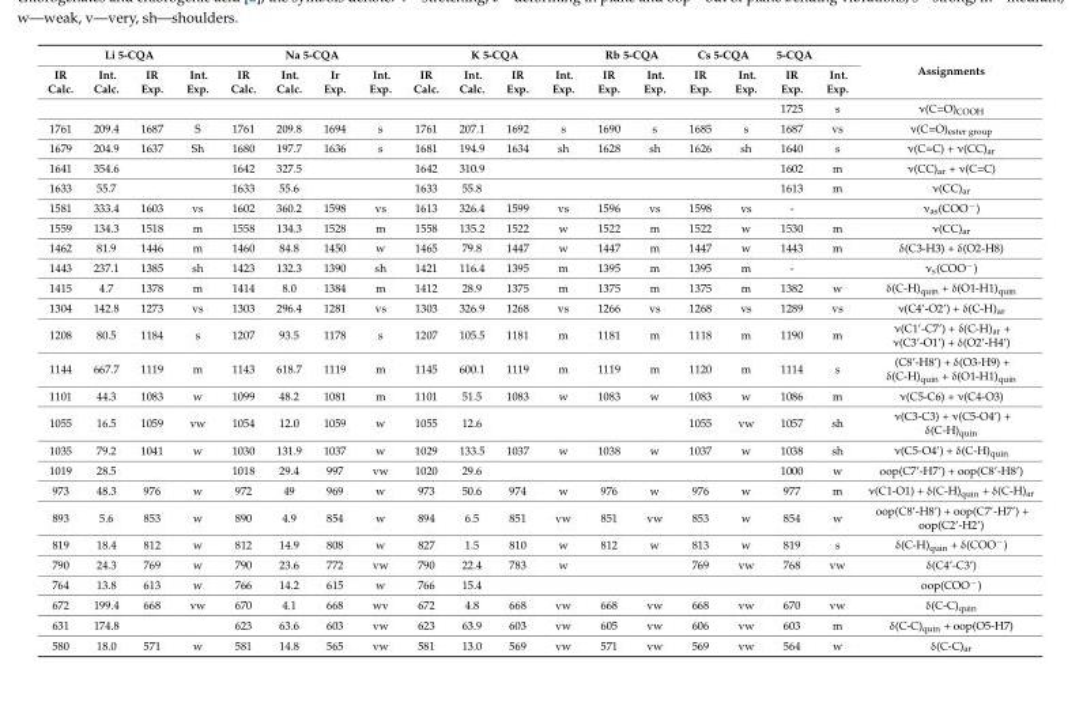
<table><thead><tr><td colspan="4">Li 5-CQA</td><td colspan="4">Na 5-CQA</td><td colspan="4">K 5-CQA</td><td colspan="2">Rb 5-CQA</td><td colspan="2">Cs 5-CQA</td><td rowspan="2">5-CQA IR Exp.</td><td rowspan="2">Int. Exp.</td><td rowspan="2">Assignments</td></tr><tr><td>IR Calc.</td><td>Int. Calc.</td><td>IR Exp.</td><td>Int. Exp.</td><td>IR Calc.</td><td>Int. Calc.</td><td>Ir Exp.</td><td>Int. Exp.</td><td>IR Calc.</td><td>Int. Calc.</td><td>IR Exp.</td><td>Int. Exp.</td><td>IR Exp.</td><td>Int. Exp.</td><td>IR Exp.</td><td>Int. Exp.</td></tr></thead><tbody><tr><td></td><td></td><td></td><td></td><td></td><td></td><td></td><td></td><td></td><td></td><td></td><td></td><td></td><td></td><td></td><td></td><td>1725</td><td>s</td><td>ν(C=O)<sub>COOH</sub></td></tr><tr><td>1761</td><td>209.4</td><td>1687</td><td>S</td><td>1761</td><td>209.8</td><td>1694</td><td>s</td><td>1761</td><td>207.1</td><td>1692</td><td>s</td><td>1690</td><td>s</td><td>1685</td><td>s</td><td>1687</td><td>vs</td><td>ν(C=O)<sub>ester group</sub></td></tr><tr><td>1679</td><td>204.9</td><td>1637</td><td>Sh</td><td>1680</td><td>197.7</td><td>1636</td><td>s</td><td>1681</td><td>194.9</td><td>1634</td><td>sh</td><td>1628</td><td>sh</td><td>1626</td><td>sh</td><td>1640</td><td>s</td><td>ν(C=C) + ν(CC)<sub>ar</sub></td></tr><tr><td>1641</td><td>354.6</td><td></td><td></td><td>1642</td><td>327.5</td><td></td><td></td><td>1642</td><td>310.9</td><td></td><td></td><td></td><td></td><td></td><td></td><td>1602</td><td>m</td><td>ν(CC)<sub>ar</sub> + ν(C=C)</td></tr><tr><td>1633</td><td>55.7</td><td></td><td></td><td>1633</td><td>55.6</td><td></td><td></td><td>1633</td><td>55.8</td><td></td><td></td><td></td><td></td><td></td><td></td><td>1613</td><td>m</td><td>ν(CC)<sub>ar</sub></td></tr><tr><td>1581</td><td>333.4</td><td>1603</td><td>vs</td><td>1602</td><td>360.2</td><td>1598</td><td>vs</td><td>1613</td><td>326.4</td><td>1599</td><td>vs</td><td>1596</td><td>vs</td><td>1598</td><td>vs</td><td>-</td><td></td><td>ν<sub>as</sub>(COO<sup>−</sup>)</td></tr><tr><td>1559</td><td>134.3</td><td>1518</td><td>m</td><td>1558</td><td>134.3</td><td>1528</td><td>m</td><td>1558</td><td>135.2</td><td>1522</td><td>w</td><td>1522</td><td>m</td><td>1522</td><td>w</td><td>1530</td><td>m</td><td>ν(CC)<sub>ar</sub></td></tr><tr><td>1462</td><td>81.9</td><td>1446</td><td>m</td><td>1460</td><td>84.8</td><td>1450</td><td>w</td><td>1465</td><td>79.8</td><td>1447</td><td>w</td><td>1447</td><td>m</td><td>1447</td><td>w</td><td>1443</td><td>m</td><td>δ(C3-H3) + δ(O2-H8)</td></tr><tr><td>1443</td><td>237.1</td><td>1385</td><td>sh</td><td>1423</td><td>132.3</td><td>1390</td><td>sh</td><td>1421</td><td>116.4</td><td>1395</td><td>m</td><td>1395</td><td>m</td><td>1395</td><td>m</td><td>-</td><td></td><td>ν<sub>s</sub>(COO<sup>−</sup>)</td></tr><tr><td>1415</td><td>4.7</td><td>1378</td><td>m</td><td>1414</td><td>8.0</td><td>1384</td><td>m</td><td>1412</td><td>28.9</td><td>1375</td><td>m</td><td>1375</td><td>m</td><td>1375</td><td>m</td><td>1382</td><td>w</td><td>δ(C-H)<sub>quin</sub> + δ(O1-H1)<sub>quin</sub></td></tr><tr><td>1304</td><td>142.8</td><td>1273</td><td>vs</td><td>1303</td><td>296.4</td><td>1281</td><td>vs</td><td>1303</td><td>326.9</td><td>1268</td><td>vs</td><td>1266</td><td>vs</td><td>1268</td><td>vs</td><td>1289</td><td>vs</td><td>ν(C4’-O2’) + δ(C-H)<sub>ar</sub></td></tr><tr><td>1208</td><td>80.5</td><td>1184</td><td>s</td><td>1207</td><td>93.5</td><td>1178</td><td>s</td><td>1207</td><td>105.5</td><td>1181</td><td>m</td><td>1181</td><td>m</td><td>1118</td><td>m</td><td>1190</td><td>m</td><td>ν(C1’-C7’) + δ(C-H)<sub>ar</sub> + ν(C3’-O1’) + δ(O2’-H4’)</td></tr><tr><td>1144</td><td>667.7</td><td>1119</td><td>m</td><td>1143</td><td>618.7</td><td>1119</td><td>m</td><td>1145</td><td>600.1</td><td>1119</td><td>m</td><td>1119</td><td>m</td><td>1120</td><td>m</td><td>1114</td><td>s</td><td>(C8’-H8’) + δ(O3-H9) + δ(C-H)<sub>quin</sub> + δ(O1-H1)<sub>quin</sub></td></tr><tr><td>1101</td><td>44.3</td><td>1083</td><td>w</td><td>1099</td><td>48.2</td><td>1081</td><td>m</td><td>1101</td><td>51.5</td><td>1083</td><td>w</td><td>1083</td><td>w</td><td>1083</td><td>w</td><td>1086</td><td>m</td><td>ν(C5-C6) + ν(C4-O3)</td></tr><tr><td>1055</td><td>16.5</td><td>1059</td><td>vw</td><td>1054</td><td>12.0</td><td>1059</td><td>w</td><td>1055</td><td>12.6</td><td></td><td></td><td></td><td></td><td>1055</td><td>vw</td><td>1057</td><td>sh</td><td>ν(C3-C3) + ν(C5-O4’) + δ(C-H)<sub>quin</sub></td></tr><tr><td>1035</td><td>79.2</td><td>1041</td><td>w</td><td>1030</td><td>131.9</td><td>1037</td><td>w</td><td>1029</td><td>133.5</td><td>1037</td><td>w</td><td>1038</td><td>w</td><td>1037</td><td>w</td><td>1038</td><td>sh</td><td>ν(C5-O4’) + δ(C-H)<sub>quin</sub></td></tr><tr><td>1019</td><td>28.5</td><td></td><td></td><td>1018</td><td>29.4</td><td>997</td><td>vw</td><td>1020</td><td>29.6</td><td></td><td></td><td></td><td></td><td></td><td></td><td>1000</td><td>w</td><td>oop(C7’-H7’) + oop(C8’-H8’)</td></tr><tr><td>973</td><td>48.3</td><td>976</td><td>w</td><td>972</td><td>49</td><td>969</td><td>w</td><td>973</td><td>50.6</td><td>974</td><td>w</td><td>976</td><td>w</td><td>976</td><td>w</td><td>977</td><td>m</td><td>ν(C1-O1) + δ(C-H)<sub>quin</sub> + δ(C-H)<sub>ar</sub></td></tr><tr><td>893</td><td>5.6</td><td>853</td><td>w</td><td>890</td><td>4.9</td><td>854</td><td>w</td><td>894</td><td>6.5</td><td>851</td><td>vw</td><td>851</td><td>vw</td><td>853</td><td>w</td><td>854</td><td>w</td><td>oop(C8’-H8’) + oop(C7’-H7’) + oop(C2’-H2’)</td></tr><tr><td>819</td><td>18.4</td><td>812</td><td>w</td><td>812</td><td>14.9</td><td>808</td><td>w</td><td>827</td><td>1.5</td><td>810</td><td>w</td><td>812</td><td>w</td><td>813</td><td>w</td><td>819</td><td>s</td><td>δ(C-H)<sub>quin</sub> + δ(COO<sup>−</sup>)</td></tr><tr><td>790</td><td>24.3</td><td>769</td><td>w</td><td>790</td><td>23.6</td><td>772</td><td>vw</td><td>790</td><td>22.4</td><td>783</td><td>w</td><td></td><td></td><td>769</td><td>vw</td><td>768</td><td>vw</td><td>δ(C4’-C3’)</td></tr><tr><td>764</td><td>13.8</td><td>613</td><td>w</td><td>766</td><td>14.2</td><td>615</td><td>w</td><td>766</td><td>15.4</td><td></td><td></td><td></td><td></td><td></td><td></td><td></td><td></td><td>oop(COO<sup>−</sup>)</td></tr><tr><td>672</td><td>199.4</td><td>668</td><td>vw</td><td>670</td><td>4.1</td><td>668</td><td>wv</td><td>672</td><td>4.8</td><td>668</td><td>vw</td><td>668</td><td>vw</td><td>668</td><td>vw</td><td>670</td><td>vw</td><td>δ(C-C)<sub>quin</sub></td></tr><tr><td>631</td><td>174.8</td><td></td><td></td><td>623</td><td>63.6</td><td>603</td><td>vw</td><td>623</td><td>63.9</td><td>603</td><td>vw</td><td>605</td><td>vw</td><td>606</td><td>vw</td><td>603</td><td>m</td><td>δ(C-C)<sub>quin</sub> + oop(O5-H7)</td></tr><tr><td>580</td><td>18.0</td><td>571</td><td>w</td><td>581</td><td>14.8</td><td>565</td><td>vw</td><td>581</td><td>13.0</td><td>569</td><td>vw</td><td>571</td><td>vw</td><td>569</td><td>vw</td><td>564</td><td>w</td><td>δ(C-C)<sub>ar</sub></td></tr></tbody></table>